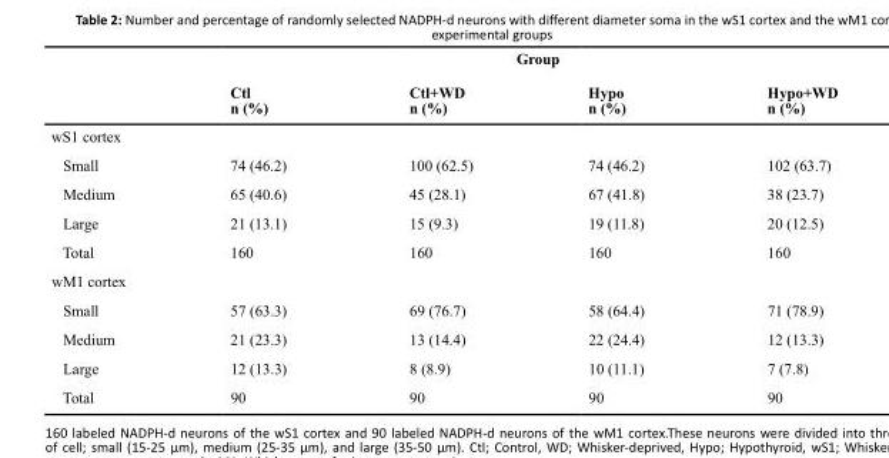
<table><thead><tr><td rowspan="2"></td><td colspan="4">Group</td></tr><tr><td>Ctl n (%)</td><td>Ctl+WD n (%)</td><td>Hypo n (%)</td><td>Hypo+WD n (%)</td></tr></thead><tbody><tr><td colspan="5">wS1 cortex</td></tr><tr><td>Small</td><td>74 (46.2)</td><td>100 (62.5)</td><td>74 (46.2)</td><td>102 (63.7)</td></tr><tr><td>Medium</td><td>65 (40.6)</td><td>45 (28.1)</td><td>67 (41.8)</td><td>38 (23.7)</td></tr><tr><td>Large</td><td>21 (13.1)</td><td>15 (9.3)</td><td>19 (11.8)</td><td>20 (12.5)</td></tr><tr><td>Total</td><td>160</td><td>160</td><td>160</td><td>160</td></tr><tr><td colspan="5">wM1 cortex</td></tr><tr><td>Small</td><td>57 (63.3)</td><td>69 (76.7)</td><td>58 (64.4)</td><td>71 (78.9)</td></tr><tr><td>Medium</td><td>21 (23.3)</td><td>13 (14.4)</td><td>22 (24.4)</td><td>12 (13.3)</td></tr><tr><td>Large</td><td>12 (13.3)</td><td>8 (8.9)</td><td>10 (11.1)</td><td>7 (7.8)</td></tr><tr><td>Total</td><td>90</td><td>90</td><td>90</td><td>90</td></tr></tbody></table>